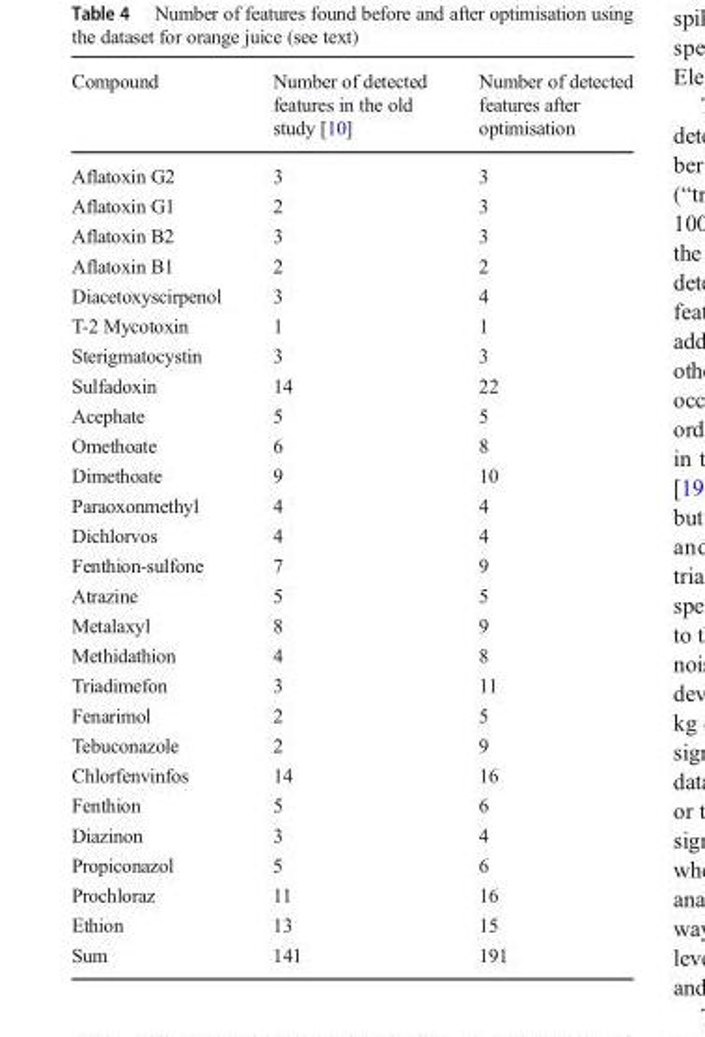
<table><thead><tr><td>Compound</td><td>Number of detected features in the old study [10]</td><td>Number of detected features after optimisation</td></tr></thead><tbody><tr><td>Aflatoxin G2</td><td>3</td><td>3</td></tr><tr><td>Aflatoxin G1</td><td>2</td><td>3</td></tr><tr><td>Aflatoxin B2</td><td>3</td><td>3</td></tr><tr><td>Aflatoxin B1</td><td>2</td><td>2</td></tr><tr><td>Diacetoxyscirpenol</td><td>3</td><td>4</td></tr><tr><td>T-2 Mycotoxin</td><td>1</td><td>1</td></tr><tr><td>Sterigmatocystin</td><td>3</td><td>3</td></tr><tr><td>Sulfadoxin</td><td>14</td><td>22</td></tr><tr><td>Acephate</td><td>5</td><td>5</td></tr><tr><td>Omethoate</td><td>6</td><td>8</td></tr><tr><td>Dimethoate</td><td>9</td><td>10</td></tr><tr><td>Paraoxonmethyl</td><td>4</td><td>4</td></tr><tr><td>Dichlorvos</td><td>4</td><td>4</td></tr><tr><td>Fenthion-sulfone</td><td>7</td><td>9</td></tr><tr><td>Atrazine</td><td>5</td><td>5</td></tr><tr><td>Metalaxyl</td><td>8</td><td>9</td></tr><tr><td>Methidathion</td><td>4</td><td>8</td></tr><tr><td>Triadimefon</td><td>3</td><td>11</td></tr><tr><td>Fenarimol</td><td>2</td><td>5</td></tr><tr><td>Tebuconazole</td><td>2</td><td>9</td></tr><tr><td>Chlorfenvinfos</td><td>14</td><td>16</td></tr><tr><td>Fenthion</td><td>5</td><td>6</td></tr><tr><td>Diazinon</td><td>3</td><td>4</td></tr><tr><td>Propiconazol</td><td>5</td><td>6</td></tr><tr><td>Prochloraz</td><td>11</td><td>16</td></tr><tr><td>Ethion</td><td>13</td><td>15</td></tr><tr><td>Sum</td><td>141</td><td>191</td></tr></tbody></table>